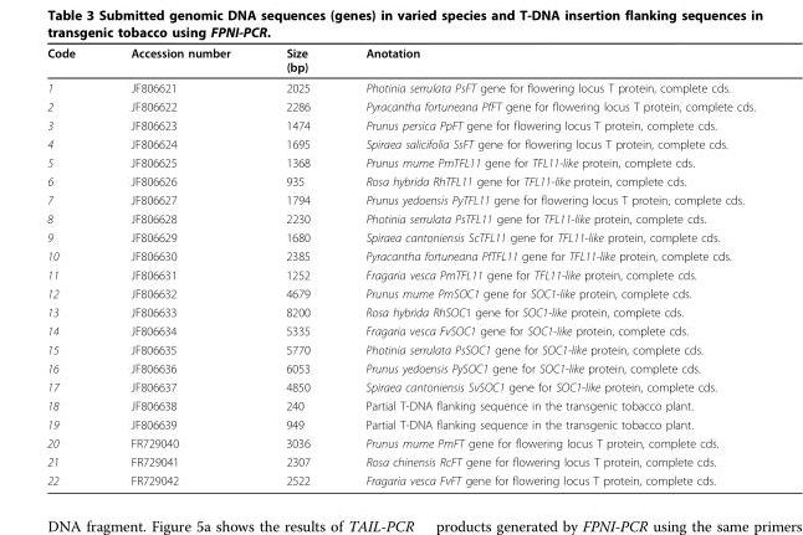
<table><thead><tr><td>Code</td><td>Accession number</td><td>Size (bp)</td><td>Anotation</td></tr></thead><tbody><tr><td>1</td><td>JF806621</td><td>2025</td><td>Photinia serrulata PsFT gene for flowering locus T protein, complete cds.</td></tr><tr><td>2</td><td>JF806622</td><td>2286</td><td>Pyracantha fortuneana PfFT gene for flowering locus T protein, complete cds.</td></tr><tr><td>3</td><td>JF806623</td><td>1474</td><td>Prunus persica PpFT gene for flowering locus T protein, complete cds.</td></tr><tr><td>4</td><td>JF806624</td><td>1695</td><td>Spiraea salicifolia SsFT gene for flowering locus T protein, complete cds.</td></tr><tr><td>5</td><td>JF806625</td><td>1368</td><td>Prunus mume PmTFL11 gene for TFL11-like protein, complete cds.</td></tr><tr><td>6</td><td>JF806626</td><td>935</td><td>Rosa hybrida RhTFL11 gene for TFL11-like protein, complete cds.</td></tr><tr><td>7</td><td>JF806627</td><td>1794</td><td>Prunus yedoensis PyTFL11 gene for flowering locus T protein, complete cds.</td></tr><tr><td>8</td><td>JF806628</td><td>2230</td><td>Photinia serrulata PsTFL11 gene for TFL11-like protein, complete cds.</td></tr><tr><td>9</td><td>JF806629</td><td>1680</td><td>Spiraea cantoniensis ScTFL11 gene for TFL11-like protein, complete cds.</td></tr><tr><td>10</td><td>JF806630</td><td>2385</td><td>Pyracantha fortuneana PfTFL11 gene for TFL11-like protein, complete cds.</td></tr><tr><td>11</td><td>JF806631</td><td>1252</td><td>Fragaria vesca PmTFL11 gene for TFL11-like protein, complete cds.</td></tr><tr><td>12</td><td>JF806632</td><td>4679</td><td>Prunus mume PmSOC1 gene for SOC1-like protein, complete cds.</td></tr><tr><td>13</td><td>JF806633</td><td>8200</td><td>Rosa hybrida RhSOC1 gene for SOC1-like protein, complete cds.</td></tr><tr><td>14</td><td>JF806634</td><td>5335</td><td>Fragaria vesca FvSOC1 gene for SOC1-like protein, complete cds.</td></tr><tr><td>15</td><td>JF806635</td><td>5770</td><td>Photinia serrulata PsSOC1 gene for SOC1-like protein, complete cds.</td></tr><tr><td>16</td><td>JF806636</td><td>6053</td><td>Prunus yedoensis PySOC1 gene for SOC1-like protein, complete cds.</td></tr><tr><td>17</td><td>JF806637</td><td>4850</td><td>Spiraea cantoniensis SvSOC1 gene for SOC1-like protein, complete cds.</td></tr><tr><td>18</td><td>JF806638</td><td>240</td><td>Partial T-DNA flanking sequence in the transgenic tobacco plant.</td></tr><tr><td>19</td><td>JF806639</td><td>949</td><td>Partial T-DNA flanking sequence in the transgenic tobacco plant.</td></tr><tr><td>20</td><td>FR729040</td><td>3036</td><td>Prunus mume PmFT gene for flowering locus T protein, complete cds.</td></tr><tr><td>21</td><td>FR729041</td><td>2307</td><td>Rosa chinensis RcFT gene for flowering locus T protein, complete cds.</td></tr><tr><td>22</td><td>FR729042</td><td>2522</td><td>Fragaria vesca FvFT gene for flowering locus T protein, complete cds.</td></tr></tbody></table>